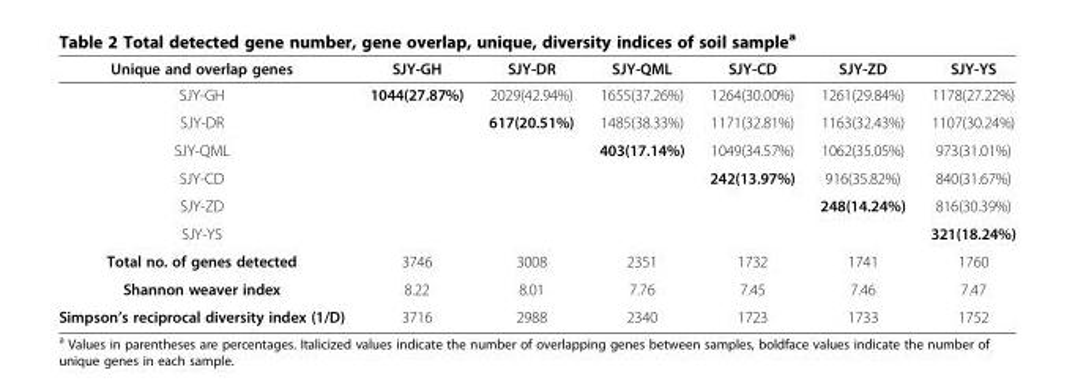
<table><thead><tr><td>Unique and overlap genes</td><td>SJY-GH</td><td>SJY-DR</td><td>SJY-QML</td><td>SJY-CD</td><td>SJY-ZD</td><td>SJY-YS</td></tr></thead><tbody><tr><td>SJY-GH</td><td>1044(27.87%)</td><td>2029(42.94%)</td><td>1655(37.26%)</td><td>1264(30.00%)</td><td>1261(29.84%)</td><td>1178(27.22%)</td></tr><tr><td>SJY-DR</td><td></td><td>617(20.51%)</td><td>1485(38.33%)</td><td>1171(32.81%)</td><td>1163(32.43%)</td><td>1107(30.24%)</td></tr><tr><td>SJY-QML</td><td></td><td></td><td>403(17.14%)</td><td>1049(34.57%)</td><td>1062(35.05%)</td><td>973(31.01%)</td></tr><tr><td>SJY-CD</td><td></td><td></td><td></td><td>242(13.97%)</td><td>916(35.82%)</td><td>840(31.67%)</td></tr><tr><td>SJY-ZD</td><td></td><td></td><td></td><td></td><td>248(14.24%)</td><td>816(30.39%)</td></tr><tr><td>SJY-YS</td><td></td><td></td><td></td><td></td><td></td><td>321(18.24%)</td></tr><tr><td>Total no. of genes detected</td><td>3746</td><td>3008</td><td>2351</td><td>1732</td><td>1741</td><td>1760</td></tr><tr><td>Shannon weaver index</td><td>8.22</td><td>8.01</td><td>7.76</td><td>7.45</td><td>7.46</td><td>7.47</td></tr><tr><td>Simpson’s reciprocal diversity index (1/D)</td><td>3716</td><td>2988</td><td>2340</td><td>1723</td><td>1733</td><td>1752</td></tr></tbody></table>